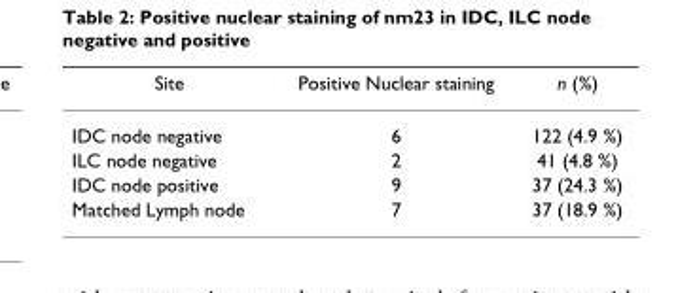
<table><thead><tr><td>Site</td><td>Positive Nuclear staining</td><td>n (%)</td></tr></thead><tbody><tr><td>IDC node negative</td><td>6</td><td>122 (4.9 %)</td></tr><tr><td>ILC node negative</td><td>2</td><td>41 (4.8 %)</td></tr><tr><td>IDC node positive</td><td>9</td><td>37 (24.3 %)</td></tr><tr><td>Matched Lymph node</td><td>7</td><td>37 (18.9 %)</td></tr></tbody></table>